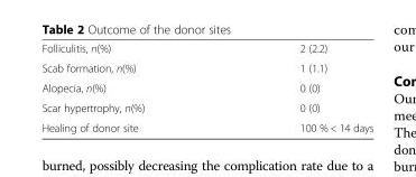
<table><tbody><tr><td>Folliculitis, n(%)</td><td>2 (2.2)</td></tr><tr><td>Scab formation, n(%)</td><td>1 (1.1)</td></tr><tr><td>Alopecia, n(%)</td><td>0 (0)</td></tr><tr><td>Scar hypertrophy, n(%)</td><td>0 (0)</td></tr><tr><td>Healing of donor site</td><td>100 % &lt; 14 days</td></tr></tbody></table>